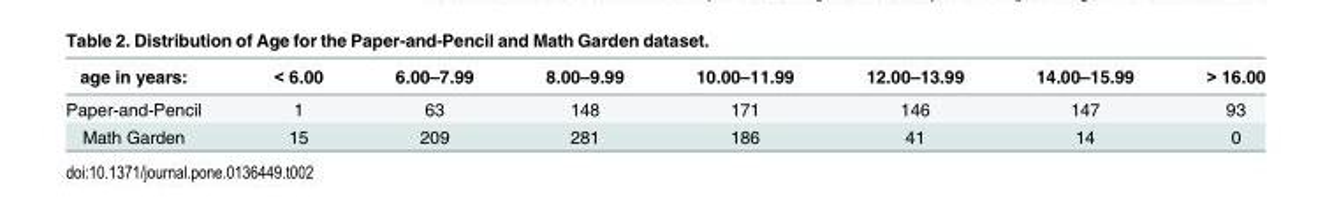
<table><thead><tr><td>age in years:</td><td>&lt; 6.00</td><td>6.00–7.99</td><td>8.00–9.99</td><td>10.00–11.99</td><td>12.00–13.99</td><td>14.00–15.99</td><td>&gt; 16.00</td></tr></thead><tbody><tr><td>Paper-and-Pencil</td><td>1</td><td>63</td><td>148</td><td>171</td><td>146</td><td>147</td><td>93</td></tr><tr><td>Math Garden</td><td>15</td><td>209</td><td>281</td><td>186</td><td>41</td><td>14</td><td>0</td></tr></tbody></table>